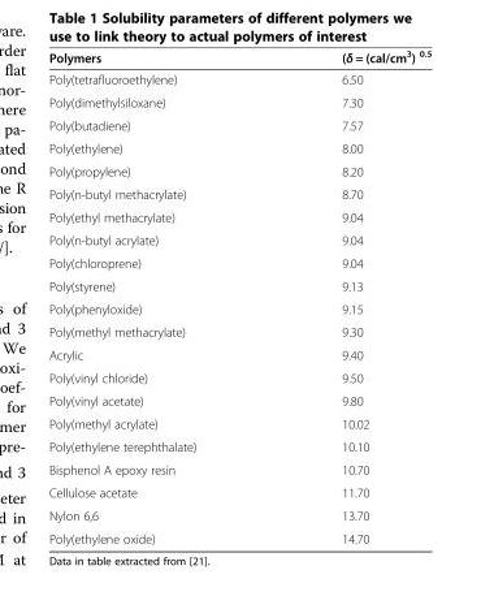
<table><thead><tr><td>Polymers</td><td>(δ = (cal/cm<sup>3</sup>) <sup>0.5</sup></td></tr></thead><tbody><tr><td>Poly(tetrafluoroethylene)</td><td>6.50</td></tr><tr><td>Poly(dimethylsiloxane)</td><td>7.30</td></tr><tr><td>Poly(butadiene)</td><td>7.57</td></tr><tr><td>Poly(ethylene)</td><td>8.00</td></tr><tr><td>Poly(propylene)</td><td>8.20</td></tr><tr><td>Poly(n-butyl methacrylate)</td><td>8.70</td></tr><tr><td>Poly(ethyl methacrylate)</td><td>9.04</td></tr><tr><td>Poly(n-butyl acrylate)</td><td>9.04</td></tr><tr><td>Poly(chloroprene)</td><td>9.04</td></tr><tr><td>Poly(styrene)</td><td>9.13</td></tr><tr><td>Poly(phenyloxide)</td><td>9.15</td></tr><tr><td>Poly(methyl methacrylate)</td><td>9.30</td></tr><tr><td>Acrylic</td><td>9.40</td></tr><tr><td>Poly(vinyl chloride)</td><td>9.50</td></tr><tr><td>Poly(vinyl acetate)</td><td>9.80</td></tr><tr><td>Poly(methyl acrylate)</td><td>10.02</td></tr><tr><td>Poly(ethylene terephthalate)</td><td>10.10</td></tr><tr><td>Bisphenol A epoxy resin</td><td>10.70</td></tr><tr><td>Cellulose acetate</td><td>11.70</td></tr><tr><td>Nylon 6,6</td><td>13.70</td></tr><tr><td>Poly(ethylene oxide)</td><td>14.70</td></tr></tbody></table>